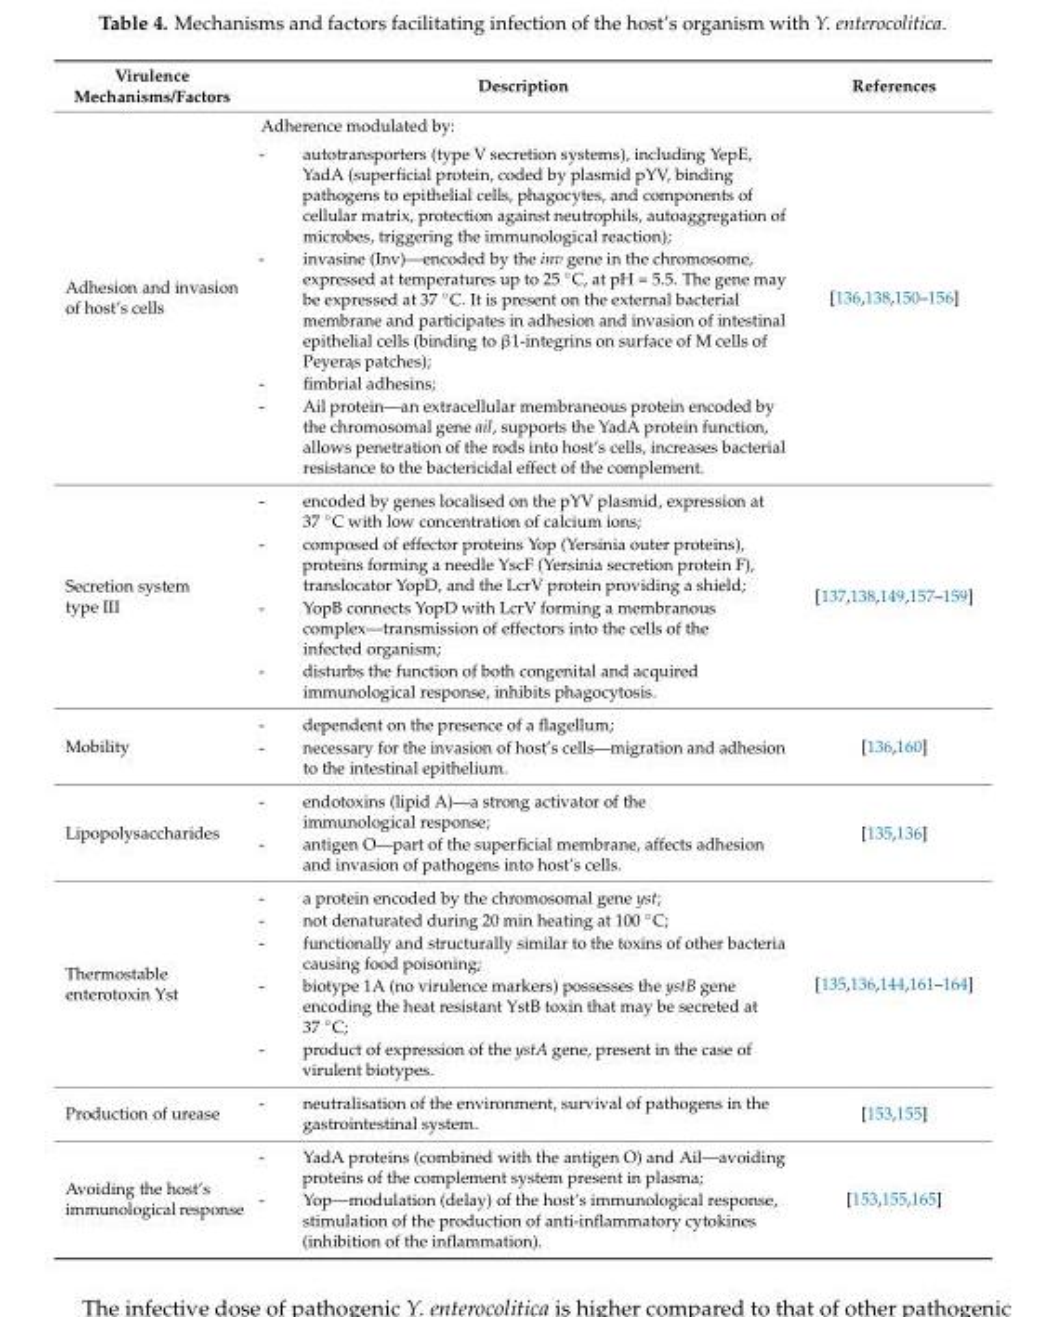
<table><thead><tr><td>Virulence Mechanisms/Factors</td><td>Description</td><td>References</td></tr></thead><tbody><tr><td>Adhesion and invasion of host’s cells</td><td>Adherence modulated by: - autotransporters (type V secretion systems), including YepE, YadA (superficial protein, coded by plasmid pYV, binding pathogens to epithelial cells, phagocytes, and components of cellular matrix, protection against neutrophils, autoaggregation of microbes, triggering the immunological reaction); - invasine (Inv)—encoded by the inv gene in the chromosome, expressed at temperatures up to 25 ◦C, at pH = 5.5. The gene may be expressed at 37 ◦C. It is present on the external bacterial membrane and participates in adhesion and invasion of intestinal epithelial cells (binding to β1-integrins on surface of M cells of Peyer ˛as patches); - fimbrial adhesins; - Ail protein—an extracellular membraneous protein encoded by the chromosomal gene ail, supports the YadA protein function, allows penetration of the rods into host’s cells, increases bacterial resistance to the bactericidal effect of the complement.</td><td>[136,138,150–156]</td></tr><tr><td>Secretion system type III</td><td>- encoded by genes localised on the pYV plasmid, expression at 37 ◦C with low concentration of calcium ions; - composed of effector proteins Yop (Yersinia outer proteins), proteins forming a needle YscF (Yersinia secretion protein F), translocator YopD, and the LcrV protein providing a shield; - YopB connects YopD with LcrV forming a membranous complex—transmission of effectors into the cells of the infected organism; - disturbs the function of both congenital and acquired immunological response, inhibits phagocytosis.</td><td>[137,138,149,157–159]</td></tr><tr><td>Mobility</td><td>- dependent on the presence of a flagellum; - necessary for the invasion of host’s cells—migration and adhesion to the intestinal epithelium.</td><td>[136,160]</td></tr><tr><td>Lipopolysaccharides</td><td>- endotoxins (lipid A)—a strong activator of the immunological response; - antigen O—part of the superficial membrane, affects adhesion and invasion of pathogens into host’s cells.</td><td>[135,136]</td></tr><tr><td>Thermostable enterotoxin Yst</td><td>- a protein encoded by the chromosomal gene yst; - not denaturated during 20 min heating at 100 ◦C; - functionally and structurally similar to the toxins of other bacteria causing food poisoning; - biotype 1A (no virulence markers) possesses the ystB gene encoding the heat resistant YstB toxin that may be secreted at 37 ◦C; - product of expression of the ystA gene, present in the case of virulent biotypes.</td><td>[135,136,144,161–164]</td></tr><tr><td>Production of urease</td><td>- neutralisation of the environment, survival of pathogens in the gastrointestinal system.</td><td>[153,155]</td></tr><tr><td>Avoiding the host’s immunological response</td><td>- YadA proteins (combined with the antigen O) and Ail—avoiding proteins of the complement system present in plasma; - Yop—modulation (delay) of the host’s immunological response, stimulation of the production of anti-inflammatory cytokines (inhibition of the inflammation).</td><td>[153,155,165]</td></tr></tbody></table>